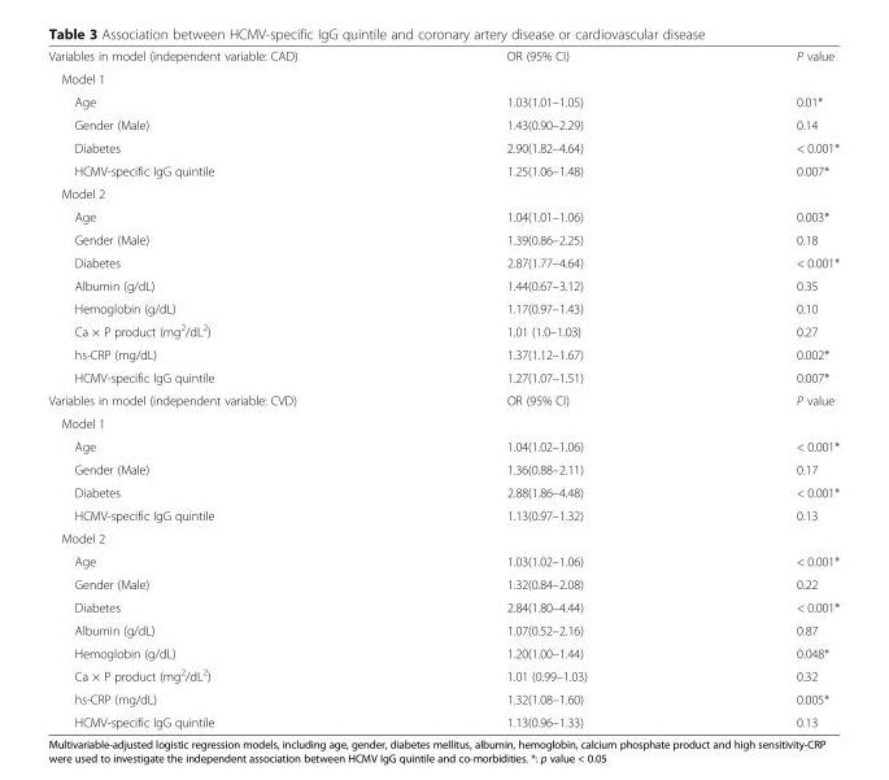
<table><tbody><tr><td>Variables in model (independent variable: CAD)</td><td>OR (95% CI)</td><td>P value</td></tr><tr><td colspan="3">Model 1</td></tr><tr><td>Age</td><td>1.03(1.01–1.05)</td><td>0.01*</td></tr><tr><td>Gender (Male)</td><td>1.43(0.90–2.29)</td><td>0.14</td></tr><tr><td>Diabetes</td><td>2.90(1.82–4.64)</td><td>&lt; 0.001*</td></tr><tr><td>HCMV-specific IgG quintile</td><td>1.25(1.06–1.48)</td><td>0.007*</td></tr><tr><td colspan="3">Model 2</td></tr><tr><td>Age</td><td>1.04(1.01–1.06)</td><td>0.003*</td></tr><tr><td>Gender (Male)</td><td>1.39(0.86–2.25)</td><td>0.18</td></tr><tr><td>Diabetes</td><td>2.87(1.77–4.64)</td><td>&lt; 0.001*</td></tr><tr><td>Albumin (g/dL)</td><td>1.44(0.67–3.12)</td><td>0.35</td></tr><tr><td>Hemoglobin (g/dL)</td><td>1.17(0.97–1.43)</td><td>0.10</td></tr><tr><td>Ca × P product (mg<sup>2</sup>/dL<sup>2</sup>)</td><td>1.01 (1.0–1.03)</td><td>0.27</td></tr><tr><td>hs-CRP (mg/dL)</td><td>1.37(1.12–1.67)</td><td>0.002*</td></tr><tr><td>HCMV-specific IgG quintile</td><td>1.27(1.07–1.51)</td><td>0.007*</td></tr><tr><td>Variables in model (independent variable: CVD)</td><td>OR (95% CI)</td><td>P value</td></tr><tr><td colspan="3">Model 1</td></tr><tr><td>Age</td><td>1.04(1.02–1.06)</td><td>&lt; 0.001*</td></tr><tr><td>Gender (Male)</td><td>1.36(0.88–2.11)</td><td>0.17</td></tr><tr><td>Diabetes</td><td>2.88(1.86–4.48)</td><td>&lt; 0.001*</td></tr><tr><td>HCMV-specific IgG quintile</td><td>1.13(0.97–1.32)</td><td>0.13</td></tr><tr><td colspan="3">Model 2</td></tr><tr><td>Age</td><td>1.03(1.02–1.06)</td><td>&lt; 0.001*</td></tr><tr><td>Gender (Male)</td><td>1.32(0.84–2.08)</td><td>0.22</td></tr><tr><td>Diabetes</td><td>2.84(1.80–4.44)</td><td>&lt; 0.001*</td></tr><tr><td>Albumin (g/dL)</td><td>1.07(0.52–2.16)</td><td>0.87</td></tr><tr><td>Hemoglobin (g/dL)</td><td>1.20(1.00–1.44)</td><td>0.048*</td></tr><tr><td>Ca × P product (mg<sup>2</sup>/dL<sup>2</sup>)</td><td>1.01 (0.99–1.03)</td><td>0.32</td></tr><tr><td>hs-CRP (mg/dL)</td><td>1.32(1.08–1.60)</td><td>0.005*</td></tr><tr><td>HCMV-specific IgG quintile</td><td>1.13(0.96–1.33)</td><td>0.13</td></tr></tbody></table>